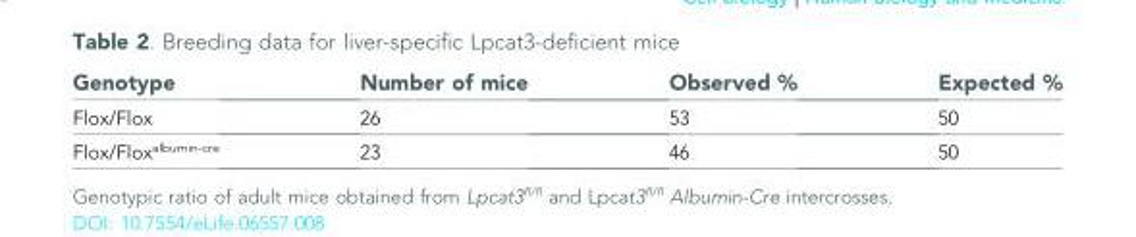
<table><thead><tr><td>Genotype</td><td>Number of mice</td><td>Observed %</td><td>Expected %</td></tr></thead><tbody><tr><td>Flox/Flox</td><td>26</td><td>53</td><td>50</td></tr><tr><td>Flox/Flox<sup>albumin-cre</sup></td><td>23</td><td>46</td><td>50</td></tr></tbody></table>